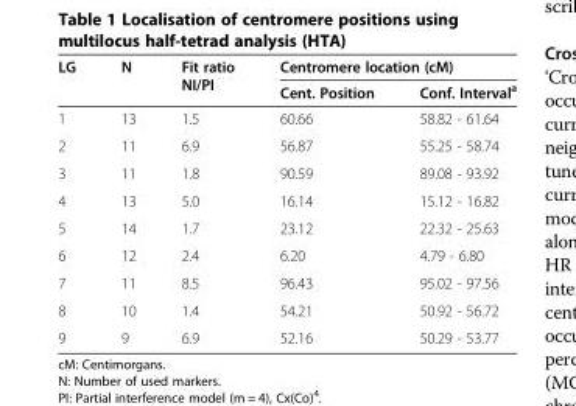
<table><thead><tr><td rowspan="2">LG</td><td rowspan="2">N</td><td rowspan="2">Fit ratio NI/PI</td><td colspan="2">Centromere location (cM)</td></tr><tr><td>Cent. Position</td><td>Conf. Interval<sup>a</sup></td></tr></thead><tbody><tr><td>1</td><td>13</td><td>1.5</td><td>60.66</td><td>58.82 - 61.64</td></tr><tr><td>2</td><td>11</td><td>6.9</td><td>56.87</td><td>55.25 - 58.74</td></tr><tr><td>3</td><td>11</td><td>1.8</td><td>90.59</td><td>89.08 - 93.92</td></tr><tr><td>4</td><td>13</td><td>5.0</td><td>16.14</td><td>15.12 - 16.82</td></tr><tr><td>5</td><td>14</td><td>1.7</td><td>23.12</td><td>22.32 - 25.63</td></tr><tr><td>6</td><td>12</td><td>2.4</td><td>6.20</td><td>4.79 - 6.80</td></tr><tr><td>7</td><td>11</td><td>8.5</td><td>96.43</td><td>95.02 - 97.56</td></tr><tr><td>8</td><td>10</td><td>1.4</td><td>54.21</td><td>50.92 - 56.72</td></tr><tr><td>9</td><td>9</td><td>6.9</td><td>52.16</td><td>50.29 - 53.77</td></tr></tbody></table>